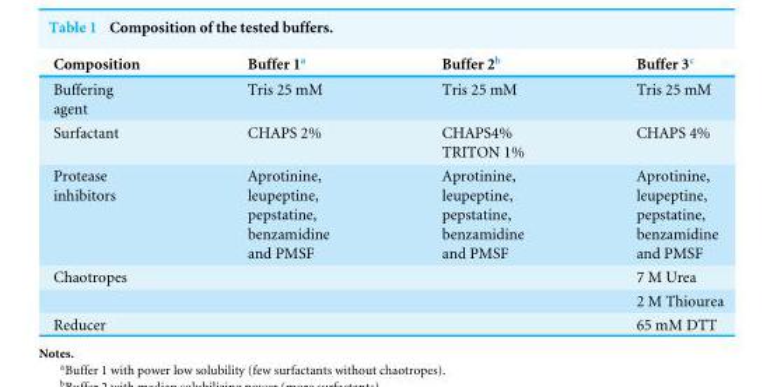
<table><thead><tr><td>Composition</td><td>Buffer 1<sup>a</sup></td><td>Buffer 2<sup>b</sup></td><td>Buffer 3<sup>c</sup></td></tr></thead><tbody><tr><td>Buffering agent</td><td>Tris 25 mM</td><td>Tris 25 mM</td><td>Tris 25 mM</td></tr><tr><td>Surfactant</td><td>CHAPS 2%</td><td>CHAPS4% TRITON 1%</td><td>CHAPS 4%</td></tr><tr><td>Protease inhibitors</td><td>Aprotinine, leupeptine, pepstatine, benzamidine and PMSF</td><td>Aprotinine, leupeptine, pepstatine, benzamidine and PMSF</td><td>Aprotinine, leupeptine, pepstatine, benzamidine and PMSF</td></tr><tr><td rowspan="2">Chaotropes</td><td></td><td></td><td>7 M Urea</td></tr><tr><td></td><td></td><td>2 M Thiourea</td></tr><tr><td>Reducer</td><td></td><td></td><td>65 mM DTT</td></tr></tbody></table>